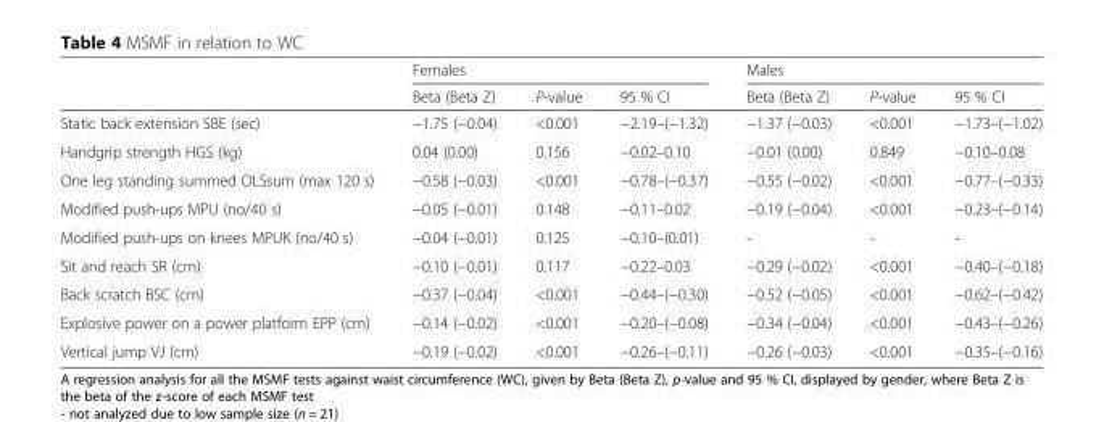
<table><thead><tr><td rowspan="2"></td><td colspan="3">Females</td><td colspan="3">Males</td></tr><tr><td>Beta (Beta Z)</td><td>P-value</td><td>95 % CI</td><td>Beta (Beta Z)</td><td>P-value</td><td>95 % CI</td></tr></thead><tbody><tr><td>Static back extension SBE (sec)</td><td>−1.75 (−0.04)</td><td>&lt;0.001</td><td>−2.19–(−1.32)</td><td>−1.37 (−0.03)</td><td>&lt;0.001</td><td>−1.73–(−1.02)</td></tr><tr><td>Handgrip strength HGS (kg)</td><td>0.04 (0.00)</td><td>0.156</td><td>−0.02–0.10</td><td>−0.01 (0.00)</td><td>0.849</td><td>−0.10–0.08</td></tr><tr><td>One leg standing summed OLSsum (max 120 s)</td><td>−0.58 (−0.03)</td><td>&lt;0.001</td><td>−0.78–(−0.37)</td><td>−0.55 (−0.02)</td><td>&lt;0.001</td><td>−0.77–(−0.33)</td></tr><tr><td>Modified push-ups MPU (no/40 s)</td><td>−0.05 (−0.01)</td><td>0.148</td><td>−0.11–0.02</td><td>−0.19 (−0.04)</td><td>&lt;0.001</td><td>−0.23–(−0.14)</td></tr><tr><td>Modified push-ups on knees MPUK (no/40 s)</td><td>−0.04 (−0.01)</td><td>0.125</td><td>−0.10–(0.01)</td><td>-</td><td>-</td><td>-</td></tr><tr><td>Sit and reach SR (cm)</td><td>−0.10 (−0.01)</td><td>0.117</td><td>−0.22–0.03</td><td>−0.29 (−0.02)</td><td>&lt;0.001</td><td>−0.40–(−0.18)</td></tr><tr><td>Back scratch BSC (cm)</td><td>−0.37 (−0.04)</td><td>&lt;0.001</td><td>−0.44–(−0.30)</td><td>−0.52 (−0.05)</td><td>&lt;0.001</td><td>−0.62–(−0.42)</td></tr><tr><td>Explosive power on a power platform EPP (cm)</td><td>−0.14 (−0.02)</td><td>&lt;0.001</td><td>−0.20–(−0.08)</td><td>−0.34 (−0.04)</td><td>&lt;0.001</td><td>−0.43–(−0.26)</td></tr><tr><td>Vertical jump VJ (cm)</td><td>−0.19 (−0.02)</td><td>&lt;0.001</td><td>−0.26–(−0.11)</td><td>−0.26 (−0.03)</td><td>&lt;0.001</td><td>−0.35–(−0.16)</td></tr></tbody></table>